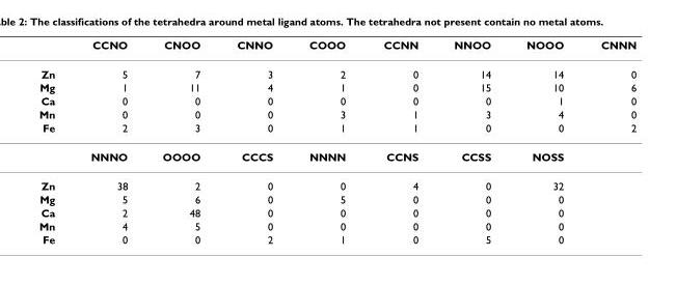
<table><thead><tr><td></td><td>CCNO</td><td>CNOO</td><td>CNNO</td><td>COOO</td><td>CCNN</td><td>NNOO</td><td>NOOO</td><td>CNNN</td></tr></thead><tbody><tr><td>Zn</td><td>5</td><td>7</td><td>3</td><td>2</td><td>0</td><td>14</td><td>14</td><td>0</td></tr><tr><td>Mg</td><td>1</td><td>11</td><td>4</td><td>1</td><td>0</td><td>15</td><td>10</td><td>6</td></tr><tr><td>Ca</td><td>0</td><td>0</td><td>0</td><td>0</td><td>0</td><td>0</td><td>1</td><td>0</td></tr><tr><td>Mn</td><td>0</td><td>0</td><td>0</td><td>3</td><td>1</td><td>3</td><td>4</td><td>0</td></tr><tr><td rowspan="2">Fe</td><td>2</td><td>3</td><td>0</td><td>1</td><td>1</td><td>0</td><td>0</td><td>2</td></tr><tr><td>NNNO</td><td>OOOO</td><td>CCCS</td><td>NNNN</td><td>CCNS</td><td>CCSS</td><td>NOSS</td><td></td></tr><tr><td>Zn</td><td>38</td><td>2</td><td>0</td><td>0</td><td>4</td><td>0</td><td>32</td><td></td></tr><tr><td>Mg</td><td>5</td><td>6</td><td>0</td><td>5</td><td>0</td><td>0</td><td>0</td><td></td></tr><tr><td>Ca</td><td>2</td><td>48</td><td>0</td><td>0</td><td>0</td><td>0</td><td>0</td><td></td></tr><tr><td>Mn</td><td>4</td><td>5</td><td>0</td><td>0</td><td>0</td><td>0</td><td>0</td><td></td></tr><tr><td>Fe</td><td>0</td><td>0</td><td>2</td><td>1</td><td>0</td><td>5</td><td>0</td><td></td></tr></tbody></table>